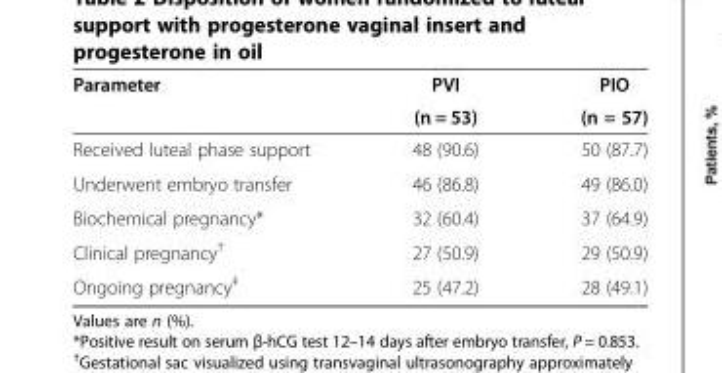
<table><thead><tr><td rowspan="2">Parameter</td><td rowspan="2">PVI (n = 53)</td><td rowspan="2">PIO (n = 57)</td></tr><tr></tr></thead><tbody><tr><td>Received luteal phase support</td><td>48 (90.6)</td><td>50 (87.7)</td></tr><tr><td>Underwent embryo transfer</td><td>46 (86.8)</td><td>49 (86.0)</td></tr><tr><td>Biochemical pregnancy*</td><td>32 (60.4)</td><td>37 (64.9)</td></tr><tr><td>Clinical pregnancy<sup>†</sup></td><td>27 (50.9)</td><td>29 (50.9)</td></tr><tr><td>Ongoing pregnancy<sup>‡</sup></td><td>25 (47.2)</td><td>28 (49.1)</td></tr></tbody></table>